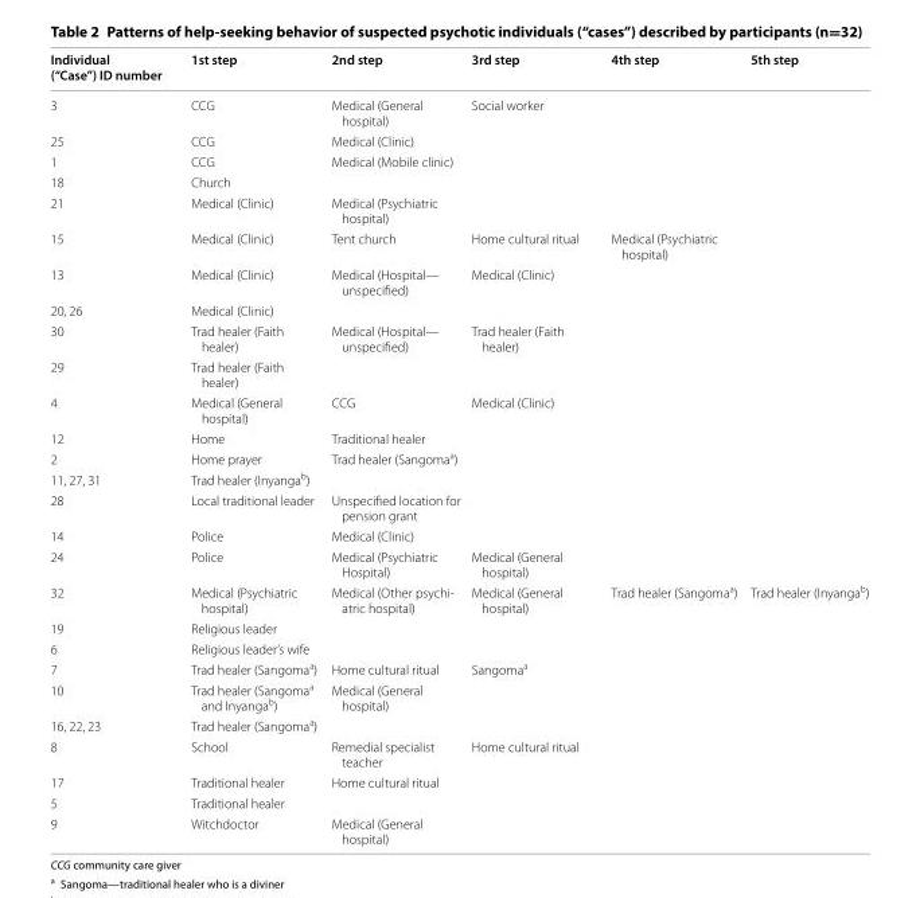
<table><thead><tr><td>Individual (“Case”) ID number</td><td>1st step</td><td>2nd step</td><td>3rd step</td><td>4th step</td><td>5th step</td></tr></thead><tbody><tr><td>3</td><td>CCG</td><td>Medical (General hospital)</td><td>Social worker</td><td></td><td></td></tr><tr><td>25</td><td>CCG</td><td>Medical (Clinic)</td><td></td><td></td><td></td></tr><tr><td>1</td><td>CCG</td><td>Medical (Mobile clinic)</td><td></td><td></td><td></td></tr><tr><td>18</td><td>Church</td><td></td><td></td><td></td><td></td></tr><tr><td>21</td><td>Medical (Clinic)</td><td>Medical (Psychiatric hospital)</td><td></td><td></td><td></td></tr><tr><td>15</td><td>Medical (Clinic)</td><td>Tent church</td><td>Home cultural ritual</td><td>Medical (Psychiatric hospital)</td><td></td></tr><tr><td>13</td><td>Medical (Clinic)</td><td>Medical (Hospital— unspecified)</td><td>Medical (Clinic)</td><td></td><td></td></tr><tr><td>20, 26</td><td>Medical (Clinic)</td><td></td><td></td><td></td><td></td></tr><tr><td>30</td><td>Trad healer (Faith healer)</td><td>Medical (Hospital— unspecified)</td><td>Trad healer (Faith healer)</td><td></td><td></td></tr><tr><td>29</td><td>Trad healer (Faith healer)</td><td></td><td></td><td></td><td></td></tr><tr><td>4</td><td>Medical (General hospital)</td><td>CCG</td><td>Medical (Clinic)</td><td></td><td></td></tr><tr><td>12</td><td>Home</td><td>Traditional healer</td><td></td><td></td><td></td></tr><tr><td>2</td><td>Home prayer</td><td>Trad healer (Sangoma<sup>a</sup>)</td><td></td><td></td><td></td></tr><tr><td>11, 27, 31</td><td>Trad healer (Inyanga<sup>b</sup>)</td><td></td><td></td><td></td><td></td></tr><tr><td>28</td><td>Local traditional leader</td><td>Unspecified location for pension grant</td><td></td><td></td><td></td></tr><tr><td>14</td><td>Police</td><td>Medical (Clinic)</td><td></td><td></td><td></td></tr><tr><td>24</td><td>Police</td><td>Medical (Psychiatric Hospital)</td><td>Medical (General hospital)</td><td></td><td></td></tr><tr><td>32</td><td>Medical (Psychiatric hospital)</td><td>Medical (Other psychi- atric hospital)</td><td>Medical (General hospital)</td><td>Trad healer (Sangoma<sup>a</sup>)</td><td>Trad healer (Inyanga<sup>b</sup>)</td></tr><tr><td>19</td><td>Religious leader</td><td></td><td></td><td></td><td></td></tr><tr><td>6</td><td>Religious leader’s wife</td><td></td><td></td><td></td><td></td></tr><tr><td>7</td><td>Trad healer (Sangoma<sup>a</sup>)</td><td>Home cultural ritual</td><td>Sangoma<sup>a</sup></td><td></td><td></td></tr><tr><td>10</td><td>Trad healer (Sangoma<sup>a</sup> and Inyanga<sup>b</sup>)</td><td>Medical (General hospital)</td><td></td><td></td><td></td></tr><tr><td>16, 22, 23</td><td>Trad healer (Sangoma<sup>a</sup>)</td><td></td><td></td><td></td><td></td></tr><tr><td>8</td><td>School</td><td>Remedial specialist teacher</td><td>Home cultural ritual</td><td></td><td></td></tr><tr><td>17</td><td>Traditional healer</td><td>Home cultural ritual</td><td></td><td></td><td></td></tr><tr><td>5</td><td>Traditional healer</td><td></td><td></td><td></td><td></td></tr><tr><td>9</td><td>Witchdoctor</td><td>Medical (General hospital)</td><td></td><td></td><td></td></tr></tbody></table>